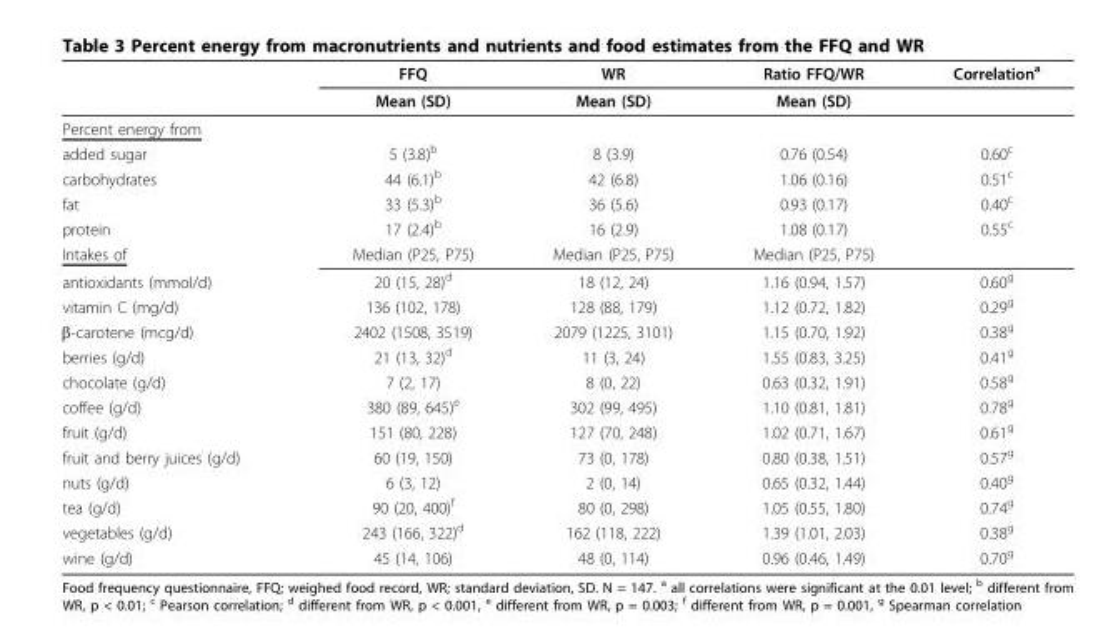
<table><thead><tr><td rowspan="2"></td><td rowspan="2">FFQ Mean (SD)</td><td rowspan="2">WR Mean (SD)</td><td rowspan="2">Ratio FFQ/WR Mean (SD)</td><td rowspan="2">Correlation<sup>a</sup></td></tr><tr></tr></thead><tbody><tr><td colspan="5">Percent energy from</td></tr><tr><td>added sugar</td><td>5 (3.8)<sup>b</sup></td><td>8 (3.9)</td><td>0.76 (0.54)</td><td>0.60<sup>c</sup></td></tr><tr><td>carbohydrates</td><td>44 (6.1)<sup>b</sup></td><td>42 (6.8)</td><td>1.06 (0.16)</td><td>0.51<sup>c</sup></td></tr><tr><td>fat</td><td>33 (5.3)<sup>b</sup></td><td>36 (5.6)</td><td>0.93 (0.17)</td><td>0.40<sup>c</sup></td></tr><tr><td>protein</td><td>17 (2.4)<sup>b</sup></td><td>16 (2.9)</td><td>1.08 (0.17)</td><td>0.55<sup>c</sup></td></tr><tr><td>Intakes of</td><td>Median (P25, P75)</td><td>Median (P25, P75)</td><td>Median (P25, P75)</td><td></td></tr><tr><td>antioxidants (mmol/d)</td><td>20 (15, 28)<sup>d</sup></td><td>18 (12, 24)</td><td>1.16 (0.94, 1.57)</td><td>0.60<sup>g</sup></td></tr><tr><td>vitamin C (mg/d)</td><td>136 (102, 178)</td><td>128 (88, 179)</td><td>1.12 (0.72, 1.82)</td><td>0.29<sup>g</sup></td></tr><tr><td>β-carotene (mcg/d)</td><td>2402 (1508, 3519)</td><td>2079 (1225, 3101)</td><td>1.15 (0.70, 1.92)</td><td>0.38<sup>g</sup></td></tr><tr><td>berries (g/d)</td><td>21 (13, 32)<sup>d</sup></td><td>11 (3, 24)</td><td>1.55 (0.83, 3.25)</td><td>0.41<sup>g</sup></td></tr><tr><td>chocolate (g/d)</td><td>7 (2, 17)</td><td>8 (0, 22)</td><td>0.63 (0.32, 1.91)</td><td>0.58<sup>g</sup></td></tr><tr><td>coffee (g/d)</td><td>380 (89, 645)<sup>e</sup></td><td>302 (99, 495)</td><td>1.10 (0.81, 1.81)</td><td>0.78<sup>g</sup></td></tr><tr><td>fruit (g/d)</td><td>151 (80, 228)</td><td>127 (70, 248)</td><td>1.02 (0.71, 1.67)</td><td>0.61<sup>g</sup></td></tr><tr><td>fruit and berry juices (g/d)</td><td>60 (19, 150)</td><td>73 (0, 178)</td><td>0.80 (0.38, 1.51)</td><td>0.57<sup>g</sup></td></tr><tr><td>nuts (g/d)</td><td>6 (3, 12)</td><td>2 (0, 14)</td><td>0.65 (0.32, 1.44)</td><td>0.40<sup>g</sup></td></tr><tr><td>tea (g/d)</td><td>90 (20, 400)<sup>f</sup></td><td>80 (0, 298)</td><td>1.05 (0.55, 1.80)</td><td>0.74<sup>g</sup></td></tr><tr><td>vegetables (g/d)</td><td>243 (166, 322)<sup>d</sup></td><td>162 (118, 222)</td><td>1.39 (1.01, 2.03)</td><td>0.38<sup>g</sup></td></tr><tr><td>wine (g/d)</td><td>45 (14, 106)</td><td>48 (0, 114)</td><td>0.96 (0.46, 1.49)</td><td>0.70<sup>g</sup></td></tr></tbody></table>